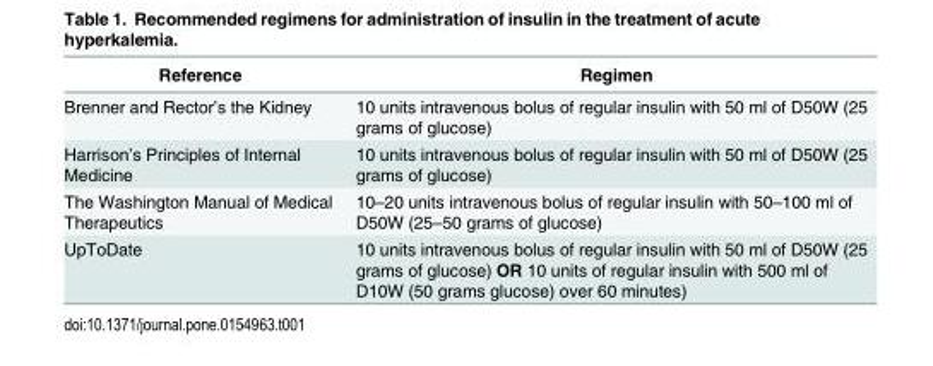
<table><thead><tr><td>Reference</td><td>Regimen</td></tr></thead><tbody><tr><td>Brenner and Rector’s the Kidney</td><td>10 units intravenous bolus of regular insulin with 50 ml of D50W (25 grams of glucose)</td></tr><tr><td>Harrison’s Principles of Internal Medicine</td><td>10 units intravenous bolus of regular insulin with 50 ml of D50W (25 grams of glucose)</td></tr><tr><td>The Washington Manual of Medical Therapeutics</td><td>10–20 units intravenous bolus of regular insulin with 50–100 ml of D50W (25–50 grams of glucose)</td></tr><tr><td>UpToDate</td><td>10 units intravenous bolus of regular insulin with 50 ml of D50W (25 grams of glucose) OR 10 units of regular insulin with 500 ml of D10W (50 grams glucose) over 60 minutes)</td></tr></tbody></table>